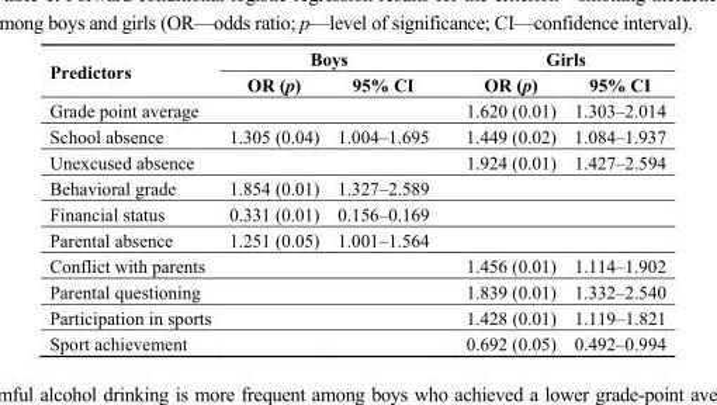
<table><thead><tr><td rowspan="2">Predictors</td><td colspan="2">Boys</td><td colspan="2">Girls</td></tr><tr><td>OR (p)</td><td>95% CI</td><td>OR (p)</td><td>95% CI</td></tr></thead><tbody><tr><td>Grade point average</td><td></td><td></td><td>1.620 (0.01)</td><td>1.303–2.014</td></tr><tr><td>School absence</td><td>1.305 (0.04)</td><td>1.004–1.695</td><td>1.449 (0.02)</td><td>1.084–1.937</td></tr><tr><td>Unexcused absence</td><td></td><td></td><td>1.924 (0.01)</td><td>1.427–2.594</td></tr><tr><td>Behavioral grade</td><td>1.854 (0.01)</td><td>1.327–2.589</td><td></td><td></td></tr><tr><td>Financial status</td><td>0.331 (0.01)</td><td>0.156–0.169</td><td></td><td></td></tr><tr><td>Parental absence</td><td>1.251 (0.05)</td><td>1.001–1.564</td><td></td><td></td></tr><tr><td>Conflict with parents</td><td></td><td></td><td>1.456 (0.01)</td><td>1.114–1.902</td></tr><tr><td>Parental questioning</td><td></td><td></td><td>1.839 (0.01)</td><td>1.332–2.540</td></tr><tr><td>Participation in sports</td><td></td><td></td><td>1.428 (0.01)</td><td>1.119–1.821</td></tr><tr><td>Sport achievement</td><td></td><td></td><td>0.692 (0.05)</td><td>0.492–0.994</td></tr></tbody></table>